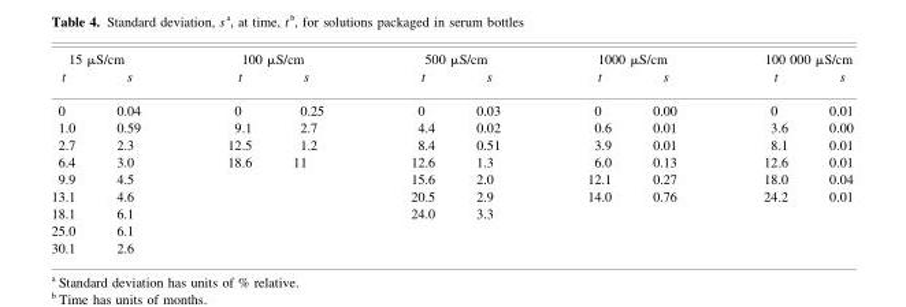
<table><thead><tr><td colspan="2">15 μS/cm</td><td colspan="2">100 μS/cm</td><td colspan="2">500 μS/cm</td><td colspan="2">1000 μS/cm</td><td colspan="2">100 000 μS/cm</td></tr><tr><td>t</td><td>s</td><td>t</td><td>s</td><td>t</td><td>s</td><td>t</td><td>s</td><td>t</td><td>s</td></tr></thead><tbody><tr><td>0</td><td>0.04</td><td>0</td><td>0.25</td><td>0</td><td>0.03</td><td>0</td><td>0.00</td><td>0</td><td>0.01</td></tr><tr><td>1.0</td><td>0.59</td><td>9.1</td><td>2.7</td><td>4.4</td><td>0.02</td><td>0.6</td><td>0.01</td><td>3.6</td><td>0.00</td></tr><tr><td>2.7</td><td>2.3</td><td>12.5</td><td>1.2</td><td>8.4</td><td>0.51</td><td>3.9</td><td>0.01</td><td>8.1</td><td>0.01</td></tr><tr><td>6.4</td><td>3.0</td><td>18.6</td><td>11</td><td>12.6</td><td>1.3</td><td>6.0</td><td>0.13</td><td>12.6</td><td>0.01</td></tr><tr><td>9.9</td><td>4.5</td><td></td><td></td><td>15.6</td><td>2.0</td><td>12.1</td><td>0.27</td><td>18.0</td><td>0.04</td></tr><tr><td>13.1</td><td>4.6</td><td></td><td></td><td>20.5</td><td>2.9</td><td>14.0</td><td>0.76</td><td>24.2</td><td>0.01</td></tr><tr><td>18.1</td><td>6.1</td><td></td><td></td><td>24.0</td><td>3.3</td><td></td><td></td><td></td><td></td></tr><tr><td>25.0</td><td>6.1</td><td></td><td></td><td></td><td></td><td></td><td></td><td></td><td></td></tr><tr><td>30.1</td><td>2.6</td><td></td><td></td><td></td><td></td><td></td><td></td><td></td><td></td></tr></tbody></table>